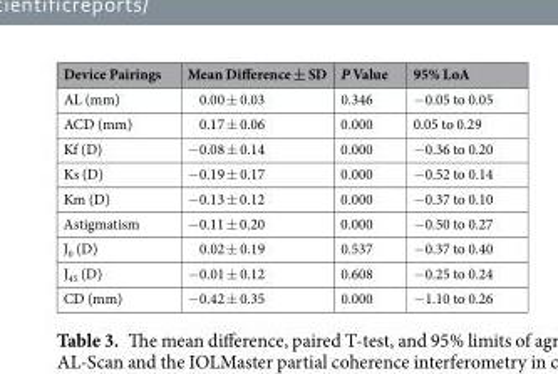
<table><thead><tr><td>Device Pairings</td><td>Mean Difference ± SD</td><td>P Value</td><td>95% LoA</td></tr></thead><tbody><tr><td>AL (mm)</td><td>0.00 ± 0.03</td><td>0.346</td><td>−0.05 to 0.05</td></tr><tr><td>ACD (mm)</td><td>0.17 ± 0.06</td><td>0.000</td><td>0.05 to 0.29</td></tr><tr><td>Kf (D)</td><td>−0.08 ± 0.14</td><td>0.000</td><td>−0.36 to 0.20</td></tr><tr><td>Ks (D)</td><td>−0.19 ± 0.17</td><td>0.000</td><td>−0.52 to 0.14</td></tr><tr><td>Km (D)</td><td>−0.13 ± 0.12</td><td>0.000</td><td>−0.37 to 0.10</td></tr><tr><td>Astigmatism</td><td>−0.11 ± 0.20</td><td>0.000</td><td>−0.50 to 0.27</td></tr><tr><td>J<sub>0</sub> (D)</td><td>0.02 ± 0.19</td><td>0.537</td><td>−0.37 to 0.40</td></tr><tr><td>J<sub>45</sub> (D)</td><td>−0.01 ± 0.12</td><td>0.608</td><td>−0.25 to 0.24</td></tr><tr><td>CD (mm)</td><td>−0.42 ± 0.35</td><td>0.000</td><td>−1.10 to 0.26</td></tr></tbody></table>